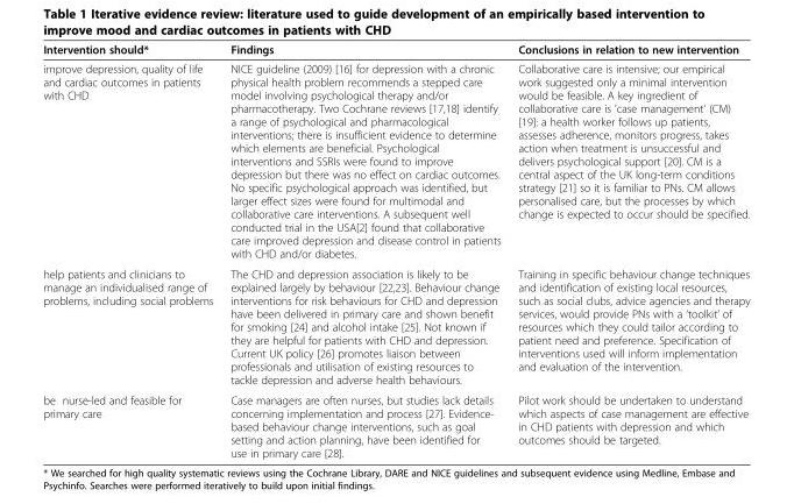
<table><thead><tr><td>Intervention should*</td><td>Findings</td><td>Conclusions in relation to new intervention</td></tr></thead><tbody><tr><td>improve depression, quality of life and cardiac outcomes in patients with CHD</td><td>NICE guideline (2009) [16] for depression with a chronic physical health problem recommends a stepped care model involving psychological therapy and/or pharmacotherapy. Two Cochrane reviews [17,18] identify a range of psychological and pharmacological interventions; there is insufficient evidence to determine which elements are beneficial. Psychological interventions and SSRIs were found to improve depression but there was no effect on cardiac outcomes. No specific psychological approach was identified, but larger effect sizes were found for multimodal and collaborative care interventions. A subsequent well conducted trial in the USA[2] found that collaborative care improved depression and disease control in patients with CHD and/or diabetes.</td><td>Collaborative care is intensive; our empirical work suggested only a minimal intervention would be feasible. A key ingredient of collaborative care is &#x27;case management&#x27; (CM) [19]: a health worker follows up patients, assesses adherence, monitors progress, takes action when treatment is unsuccessful and delivers psychological support [20]. CM is a central aspect of the UK long-term conditions strategy [21] so it is familiar to PNs. CM allows personalised care, but the processes by which change is expected to occur should be specified.</td></tr><tr><td>help patients and clinicians to manage an individualised range of problems, including social problems</td><td>The CHD and depression association is likely to be explained largely by behaviour [22,23]. Behaviour change interventions for risk behaviours for CHD and depression have been delivered in primary care and shown benefit for smoking [24] and alcohol intake [25]. Not known if they are helpful for patients with CHD and depression. Current UK policy [26] promotes liaison between professionals and utilisation of existing resources to tackle depression and adverse health behaviours.</td><td>Training in specific behaviour change techniques and identification of existing local resources, such as social clubs, advice agencies and therapy services, would provide PNs with a ‘toolkit’ of resources which they could tailor according to patient need and preference. Specification of interventions used will inform implementation and evaluation of the intervention.</td></tr><tr><td>be nurse-led and feasible for primary care</td><td>Case managers are often nurses, but studies lack details concerning implementation and process [27]. Evidence- based behaviour change interventions, such as goal setting and action planning, have been identified for use in primary care [28].</td><td>Pilot work should be undertaken to understand which aspects of case management are effective in CHD patients with depression and which outcomes should be targeted.</td></tr></tbody></table>